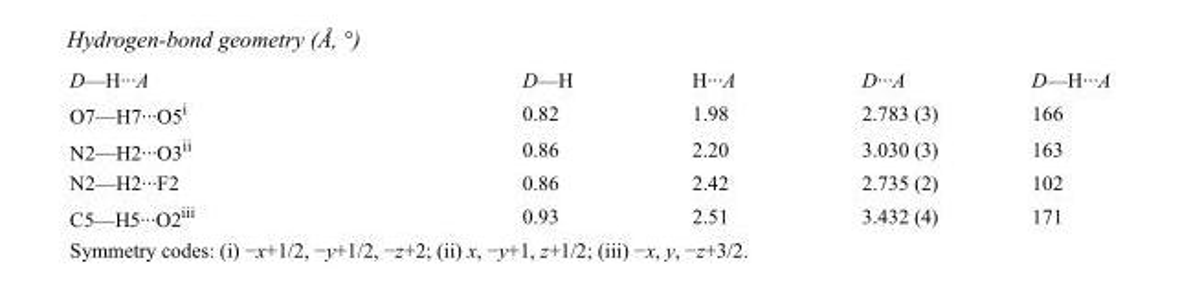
<table><tbody><tr><td>D—H···A</td><td>D—H</td><td>H···A</td><td>D···A</td><td>D—H···A</td></tr><tr><td>O7—H7···O5<sup>i</sup></td><td>0.82</td><td>1.98</td><td>2.783 (3)</td><td>166</td></tr><tr><td>N2—H2···O3<sup>ii</sup></td><td>0.86</td><td>2.20</td><td>3.030 (3)</td><td>163</td></tr><tr><td>N2—H2···F2</td><td>0.86</td><td>2.42</td><td>2.735 (2)</td><td>102</td></tr><tr><td>C5—H5···O2<sup>iii</sup></td><td>0.93</td><td>2.51</td><td>3.432 (4)</td><td>171</td></tr></tbody></table>